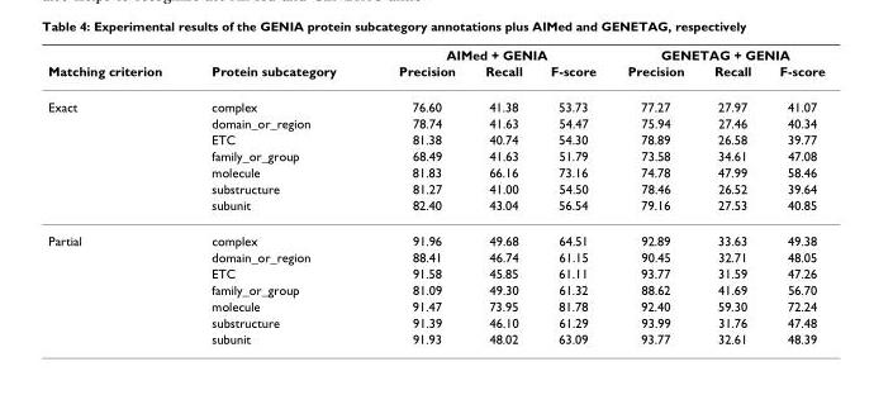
<table><thead><tr><td rowspan="2">Matching criterion</td><td rowspan="2">Protein subcategory</td><td colspan="3">AIMed + GENIA</td><td colspan="3">GENETAG + GENIA</td></tr><tr><td>Precision</td><td>Recall</td><td>F-score</td><td>Precision</td><td>Recall</td><td>F-score</td></tr></thead><tbody><tr><td rowspan="7">Exact</td><td>complex</td><td>76.60</td><td>41.38</td><td>53.73</td><td>77.27</td><td>27.97</td><td>41.07</td></tr><tr><td>domain_or_region</td><td>78.74</td><td>41.63</td><td>54.47</td><td>75.94</td><td>27.46</td><td>40.34</td></tr><tr><td>ETC</td><td>81.38</td><td>40.74</td><td>54.30</td><td>78.89</td><td>26.58</td><td>39.77</td></tr><tr><td>family_or_group</td><td>68.49</td><td>41.63</td><td>51.79</td><td>73.58</td><td>34.61</td><td>47.08</td></tr><tr><td>molecule</td><td>81.83</td><td>66.16</td><td>73.16</td><td>74.78</td><td>47.99</td><td>58.46</td></tr><tr><td>substructure</td><td>81.27</td><td>41.00</td><td>54.50</td><td>78.46</td><td>26.52</td><td>39.64</td></tr><tr><td>subunit</td><td>82.40</td><td>43.04</td><td>56.54</td><td>79.16</td><td>27.53</td><td>40.85</td></tr><tr><td rowspan="7">Partial</td><td>complex</td><td>91.96</td><td>49.68</td><td>64.51</td><td>92.89</td><td>33.63</td><td>49.38</td></tr><tr><td>domain_or_region</td><td>88.41</td><td>46.74</td><td>61.15</td><td>90.45</td><td>32.71</td><td>48.05</td></tr><tr><td>ETC</td><td>91.58</td><td>45.85</td><td>61.11</td><td>93.77</td><td>31.59</td><td>47.26</td></tr><tr><td>family_or_group</td><td>81.09</td><td>49.30</td><td>61.32</td><td>88.62</td><td>41.69</td><td>56.70</td></tr><tr><td>molecule</td><td>91.47</td><td>73.95</td><td>81.78</td><td>92.40</td><td>59.30</td><td>72.24</td></tr><tr><td>substructure</td><td>91.39</td><td>46.10</td><td>61.29</td><td>93.99</td><td>31.76</td><td>47.48</td></tr><tr><td>subunit</td><td>91.93</td><td>48.02</td><td>63.09</td><td>93.77</td><td>32.61</td><td>48.39</td></tr></tbody></table>